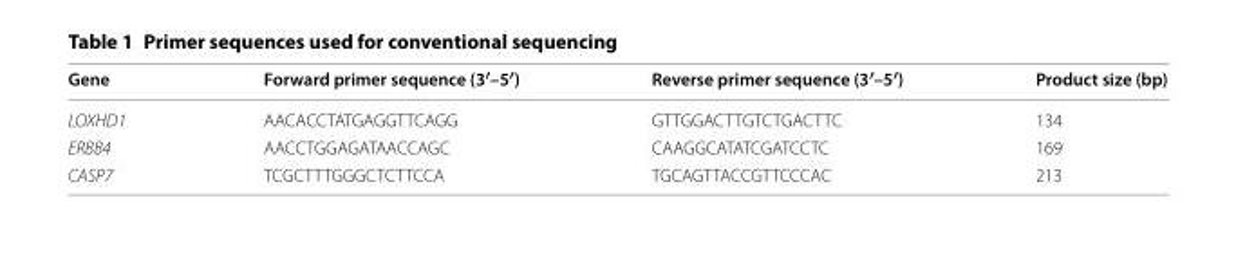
<table><thead><tr><td>Gene</td><td>Forward primer sequence (3′–5′)</td><td>Reverse primer sequence (3′–5′)</td><td>Product size (bp)</td></tr></thead><tbody><tr><td>LOXHD1</td><td>AACACCTATGAGGTTCAGG</td><td>GTTGGACTTGTCTGACTTC</td><td>134</td></tr><tr><td>ERBB4</td><td>AACCTGGAGATAACCAGC</td><td>CAAGGCATATCGATCCTC</td><td>169</td></tr><tr><td>CASP7</td><td>TCGCTTTGGGCTCTTCCA</td><td>TGCAGTTACCGTTCCCAC</td><td>213</td></tr></tbody></table>